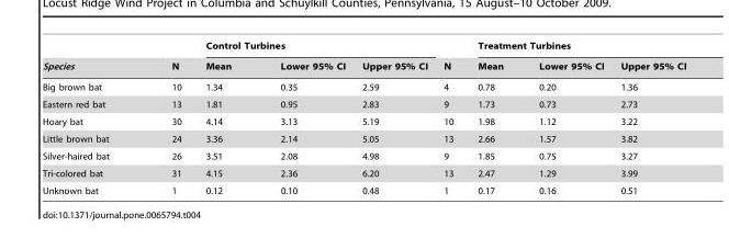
<table><thead><tr><td rowspan="2">Species</td><td rowspan="2">N</td><td colspan="3">Control Turbines</td><td rowspan="2">N</td><td colspan="3">Treatment Turbines</td></tr><tr><td>Mean</td><td>Lower 95% CI</td><td>Upper 95% CI</td><td>Mean</td><td>Lower 95% CI</td><td>Upper 95% CI</td></tr></thead><tbody><tr><td>Big brown bat</td><td>10</td><td>1.34</td><td>0.35</td><td>2.59</td><td>4</td><td>0.78</td><td>0.20</td><td>1.36</td></tr><tr><td>Eastern red bat</td><td>13</td><td>1.81</td><td>0.95</td><td>2.83</td><td>9</td><td>1.73</td><td>0.73</td><td>2.73</td></tr><tr><td>Hoary bat</td><td>30</td><td>4.14</td><td>3.13</td><td>5.19</td><td>10</td><td>1.98</td><td>1.12</td><td>3.22</td></tr><tr><td>Little brown bat</td><td>24</td><td>3.36</td><td>2.14</td><td>5.05</td><td>13</td><td>2.66</td><td>1.57</td><td>3.82</td></tr><tr><td>Silver-haired bat</td><td>26</td><td>3.51</td><td>2.08</td><td>4.98</td><td>9</td><td>1.85</td><td>0.75</td><td>3.27</td></tr><tr><td>Tri-colored bat</td><td>31</td><td>4.15</td><td>2.36</td><td>6.20</td><td>13</td><td>2.47</td><td>1.29</td><td>3.99</td></tr><tr><td>Unknown bat</td><td>1</td><td>0.12</td><td>0.10</td><td>0.48</td><td>1</td><td>0.17</td><td>0.16</td><td>0.51</td></tr></tbody></table>